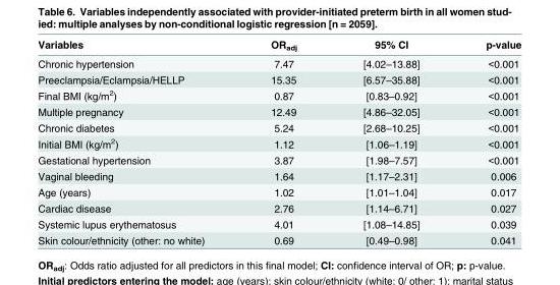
<table><thead><tr><td>Variables</td><td>OR<sub>adj</sub></td><td>95% CI</td><td>p-value</td></tr></thead><tbody><tr><td>Chronic hypertension</td><td>7.47</td><td>[4.02–13.88]</td><td>&lt;0.001</td></tr><tr><td>Preeclampsia/Eclampsia/HELLP</td><td>15.35</td><td>[6.57–35.88]</td><td>&lt;0.001</td></tr><tr><td>Final BMI (kg/m<sup>2</sup>)</td><td>0.87</td><td>[0.83–0.92]</td><td>&lt;0.001</td></tr><tr><td>Multiple pregnancy</td><td>12.49</td><td>[4.86–32.05]</td><td>&lt;0.001</td></tr><tr><td>Chronic diabetes</td><td>5.24</td><td>[2.68–10.25]</td><td>&lt;0.001</td></tr><tr><td>Initial BMI (kg/m<sup>2</sup>)</td><td>1.12</td><td>[1.06–1.19]</td><td>&lt;0.001</td></tr><tr><td>Gestational hypertension</td><td>3.87</td><td>[1.98–7.57]</td><td>&lt;0.001</td></tr><tr><td>Vaginal bleeding</td><td>1.64</td><td>[1.17–2.31]</td><td>0.006</td></tr><tr><td>Age (years)</td><td>1.02</td><td>[1.01–1.04]</td><td>0.017</td></tr><tr><td>Cardiac disease</td><td>2.76</td><td>[1.14–6.71]</td><td>0.027</td></tr><tr><td>Systemic lupus erythematosus</td><td>4.01</td><td>[1.08–14.85]</td><td>0.039</td></tr><tr><td>Skin colour/ethnicity (other: no white)</td><td>0.69</td><td>[0.49–0.98]</td><td>0.041</td></tr></tbody></table>